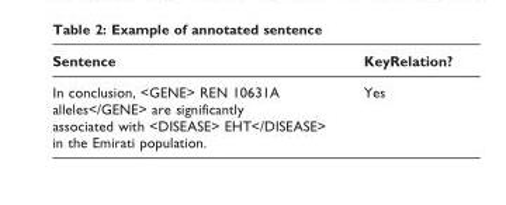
<table><thead><tr><td>Sentence</td><td>KeyRelation?</td></tr></thead><tbody><tr><td>In conclusion, &lt;GENE&gt; REN 10631A alleles&lt;/GENE&gt; are significantly associated with &lt;DISEASE&gt; EHT&lt;/DISEASE&gt; in the Emirati population.</td><td>Yes</td></tr></tbody></table>